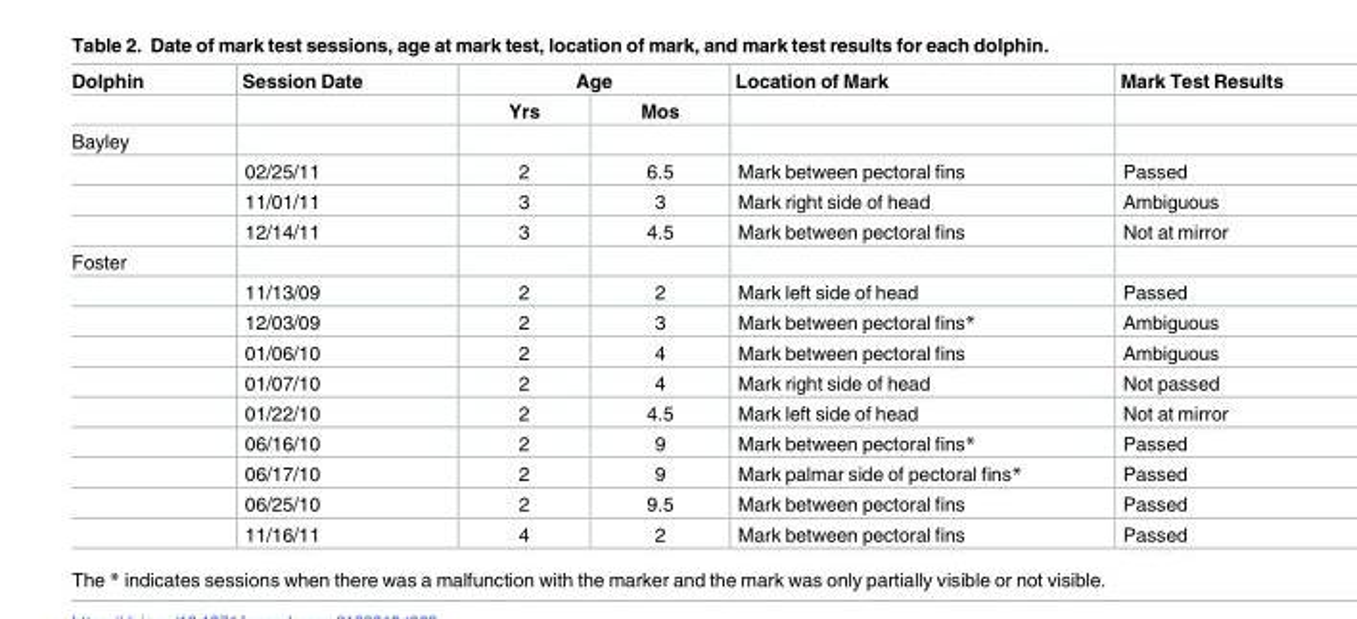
<table><thead><tr><td rowspan="2">Dolphin</td><td rowspan="2">Session Date</td><td colspan="2">Age</td><td rowspan="2">Location of Mark</td><td rowspan="2">Mark Test Results</td></tr><tr><td>Yrs</td><td>Mos</td></tr></thead><tbody><tr><td colspan="6">Bayley</td></tr><tr><td></td><td>02/25/11</td><td>2</td><td>6.5</td><td>Mark between pectoral fins</td><td>Passed</td></tr><tr><td></td><td>11/01/11</td><td>3</td><td>3</td><td>Mark right side of head</td><td>Ambiguous</td></tr><tr><td></td><td>12/14/11</td><td>3</td><td>4.5</td><td>Mark between pectoral fins</td><td>Not at mirror</td></tr><tr><td colspan="6">Foster</td></tr><tr><td></td><td>11/13/09</td><td>2</td><td>2</td><td>Mark left side of head</td><td>Passed</td></tr><tr><td></td><td>12/03/09</td><td>2</td><td>3</td><td>Mark between pectoral fins*</td><td>Ambiguous</td></tr><tr><td></td><td>01/06/10</td><td>2</td><td>4</td><td>Mark between pectoral fins</td><td>Ambiguous</td></tr><tr><td></td><td>01/07/10</td><td>2</td><td>4</td><td>Mark right side of head</td><td>Not passed</td></tr><tr><td></td><td>01/22/10</td><td>2</td><td>4.5</td><td>Mark left side of head</td><td>Not at mirror</td></tr><tr><td></td><td>06/16/10</td><td>2</td><td>9</td><td>Mark between pectoral fins*</td><td>Passed</td></tr><tr><td></td><td>06/17/10</td><td>2</td><td>9</td><td>Mark palmar side of pectoral fins*</td><td>Passed</td></tr><tr><td></td><td>06/25/10</td><td>2</td><td>9.5</td><td>Mark between pectoral fins</td><td>Passed</td></tr><tr><td></td><td>11/16/11</td><td>4</td><td>2</td><td>Mark between pectoral fins</td><td>Passed</td></tr></tbody></table>